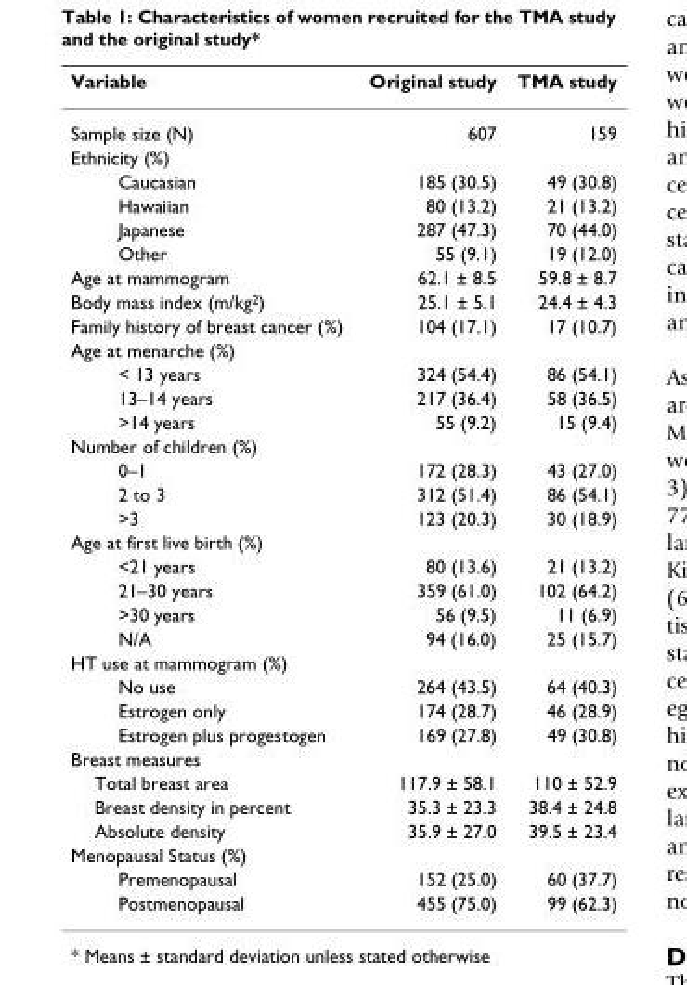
<table><thead><tr><td>Variable</td><td>Original study</td><td>TMA study</td></tr></thead><tbody><tr><td>Sample size (N)</td><td>607</td><td>159</td></tr><tr><td colspan="3">Ethnicity (%)</td></tr><tr><td>Caucasian</td><td>185 (30.5)</td><td>49 (30.8)</td></tr><tr><td>Hawaiian</td><td>80 (13.2)</td><td>21 (13.2)</td></tr><tr><td>Japanese</td><td>287 (47.3)</td><td>70 (44.0)</td></tr><tr><td>Other</td><td>55 (9.1)</td><td>19 (12.0)</td></tr><tr><td>Age at mammogram</td><td>62.1 ± 8.5</td><td>59.8 ± 8.7</td></tr><tr><td>Body mass index (m/kg<sup>2</sup>)</td><td>25.1 ± 5.1</td><td>24.4 ± 4.3</td></tr><tr><td>Family history of breast cancer (%)</td><td>104 (17.1)</td><td>17 (10.7)</td></tr><tr><td colspan="3">Age at menarche (%)</td></tr><tr><td>&lt; 13 years</td><td>324 (54.4)</td><td>86 (54.1)</td></tr><tr><td>13–14 years</td><td>217 (36.4)</td><td>58 (36.5)</td></tr><tr><td>&gt;14 years</td><td>55 (9.2)</td><td>15 (9.4)</td></tr><tr><td colspan="3">Number of children (%)</td></tr><tr><td>0–1</td><td>172 (28.3)</td><td>43 (27.0)</td></tr><tr><td>2 to 3</td><td>312 (51.4)</td><td>86 (54.1)</td></tr><tr><td>&gt;3</td><td>123 (20.3)</td><td>30 (18.9)</td></tr><tr><td colspan="3">Age at first live birth (%)</td></tr><tr><td>&lt;21 years</td><td>80 (13.6)</td><td>21 (13.2)</td></tr><tr><td>21–30 years</td><td>359 (61.0)</td><td>102 (64.2)</td></tr><tr><td>&gt;30 years</td><td>56 (9.5)</td><td>11 (6.9)</td></tr><tr><td>N/A</td><td>94 (16.0)</td><td>25 (15.7)</td></tr><tr><td colspan="3">HT use at mammogram (%)</td></tr><tr><td>No use</td><td>264 (43.5)</td><td>64 (40.3)</td></tr><tr><td>Estrogen only</td><td>174 (28.7)</td><td>46 (28.9)</td></tr><tr><td>Estrogen plus progestogen</td><td>169 (27.8)</td><td>49 (30.8)</td></tr><tr><td colspan="3">Breast measures</td></tr><tr><td>Total breast area</td><td>117.9 ± 58.1</td><td>110 ± 52.9</td></tr><tr><td>Breast density in percent</td><td>35.3 ± 23.3</td><td>38.4 ± 24.8</td></tr><tr><td>Absolute density</td><td>35.9 ± 27.0</td><td>39.5 ± 23.4</td></tr><tr><td colspan="3">Menopausal Status (%)</td></tr><tr><td>Premenopausal</td><td>152 (25.0)</td><td>60 (37.7)</td></tr><tr><td>Postmenopausal</td><td>455 (75.0)</td><td>99 (62.3)</td></tr></tbody></table>